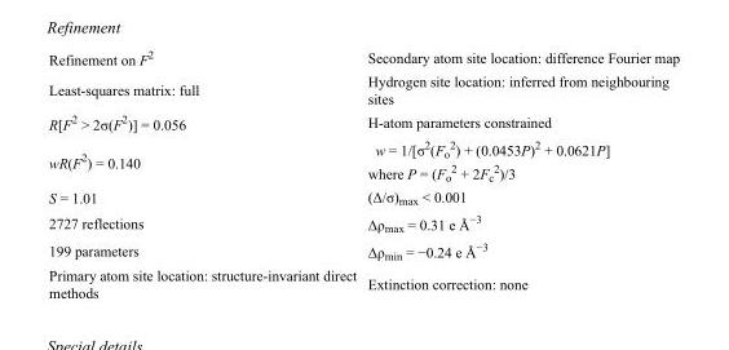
<table><tbody><tr><td>Refinement on F<sup>2</sup></td><td>Secondary atom site location: difference Fourier map</td></tr><tr><td>Least-squares matrix: full</td><td>Hydrogen site location: inferred from neighbouring sites</td></tr><tr><td>R[F<sup>2</sup> &gt; 2σ(F<sup>2</sup>)] = 0.056</td><td>H-atom parameters constrained</td></tr><tr><td>wR(F<sup>2</sup>) = 0.140</td><td>w = 1/[σ<sup>2</sup>(F<sub>o</sub> <sup>2</sup>) + (0.0453P)<sup>2</sup> + 0.0621P] where P = (F<sub>o</sub> <sup>2</sup> + 2F<sub>c</sub> <sup>2</sup>)/3</td></tr><tr><td>S = 1.01</td><td>(Δ/σ)<sub>max</sub> &lt; 0.001</td></tr><tr><td>2727 reflections</td><td>Δρ<sub>max</sub> = 0.31 e Å<sup>−3</sup></td></tr><tr><td>199 parameters</td><td>Δρ<sub>min</sub> = −0.24 e Å<sup>−3</sup></td></tr><tr><td>Primary atom site location: structure-invariant direct methods</td><td>Extinction correction: none</td></tr></tbody></table>